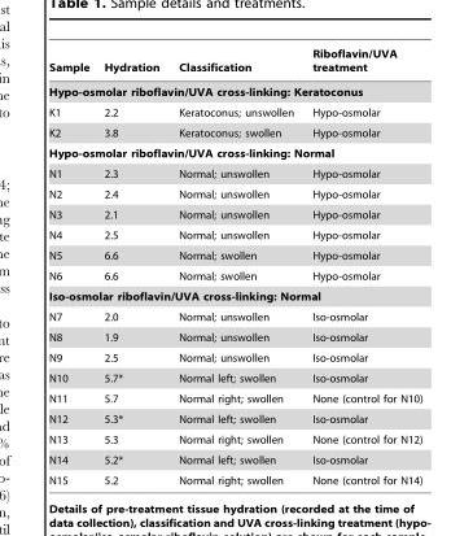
<table><thead><tr><td>Sample</td><td>Hydration</td><td>Classification</td><td>Riboflavin/UVA treatment</td></tr></thead><tbody><tr><td colspan="4">Hypo-osmolar riboflavin/UVA cross-linking: Keratoconus</td></tr><tr><td>K1</td><td>2.2</td><td>Keratoconus; unswollen</td><td>Hypo-osmolar</td></tr><tr><td>K2</td><td>3.8</td><td>Keratoconus; swollen</td><td>Hypo-osmolar</td></tr><tr><td colspan="4">Hypo-osmolar riboflavin/UVA cross-linking: Normal</td></tr><tr><td>N1</td><td>2.3</td><td>Normal; unswollen</td><td>Hypo-osmolar</td></tr><tr><td>N2</td><td>2.4</td><td>Normal; unswollen</td><td>Hypo-osmolar</td></tr><tr><td>N3</td><td>2.1</td><td>Normal; unswollen</td><td>Hypo-osmolar</td></tr><tr><td>N4</td><td>2.5</td><td>Normal; unswollen</td><td>Hypo-osmolar</td></tr><tr><td>N5</td><td>6.6</td><td>Normal; swollen</td><td>Hypo-osmolar</td></tr><tr><td>N6</td><td>6.6</td><td>Normal; swollen</td><td>Hypo-osmolar</td></tr><tr><td colspan="4">Iso-osmolar riboflavin/UVA cross-linking: Normal</td></tr><tr><td>N7</td><td>2.0</td><td>Normal; unswollen</td><td>Iso-osmolar</td></tr><tr><td>N8</td><td>1.9</td><td>Normal; unswollen</td><td>Iso-osmolar</td></tr><tr><td>N9</td><td>2.5</td><td>Normal; unswollen</td><td>Iso-osmolar</td></tr><tr><td>N10</td><td>5.7*</td><td>Normal left; swollen</td><td>Iso-osmolar</td></tr><tr><td>N11</td><td>5.7</td><td>Normal right; swollen</td><td>None (control for N10)</td></tr><tr><td>N12</td><td>5.3*</td><td>Normal left; swollen</td><td>Iso-osmolar</td></tr><tr><td>N13</td><td>5.3</td><td>Normal right; swollen</td><td>None (control for N12)</td></tr><tr><td>N14</td><td>5.2*</td><td>Normal left; swollen</td><td>Iso-osmolar</td></tr><tr><td>N15</td><td>5.2</td><td>Normal right; swollen</td><td>None (control for N14)</td></tr></tbody></table>